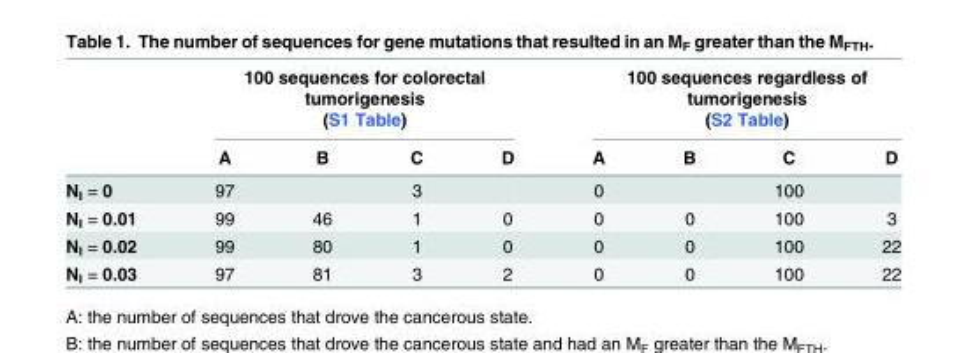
<table><thead><tr><td rowspan="2"></td><td colspan="4">100 sequences for colorectal tumorigenesis (S1 Table)</td><td colspan="4">100 sequences regardless of tumorigenesis (S2 Table)</td></tr><tr><td>A</td><td>B</td><td>C</td><td>D</td><td>A</td><td>B</td><td>C</td><td>D</td></tr></thead><tbody><tr><td>N<sub>I</sub> = 0</td><td>97</td><td></td><td>3</td><td></td><td>0</td><td></td><td>100</td><td></td></tr><tr><td>N<sub>I</sub> = 0.01</td><td>99</td><td>46</td><td>1</td><td>0</td><td>0</td><td>0</td><td>100</td><td>3</td></tr><tr><td>N<sub>I</sub> = 0.02</td><td>99</td><td>80</td><td>1</td><td>0</td><td>0</td><td>0</td><td>100</td><td>22</td></tr><tr><td>N<sub>I</sub> = 0.03</td><td>97</td><td>81</td><td>3</td><td>2</td><td>0</td><td>0</td><td>100</td><td>22</td></tr></tbody></table>